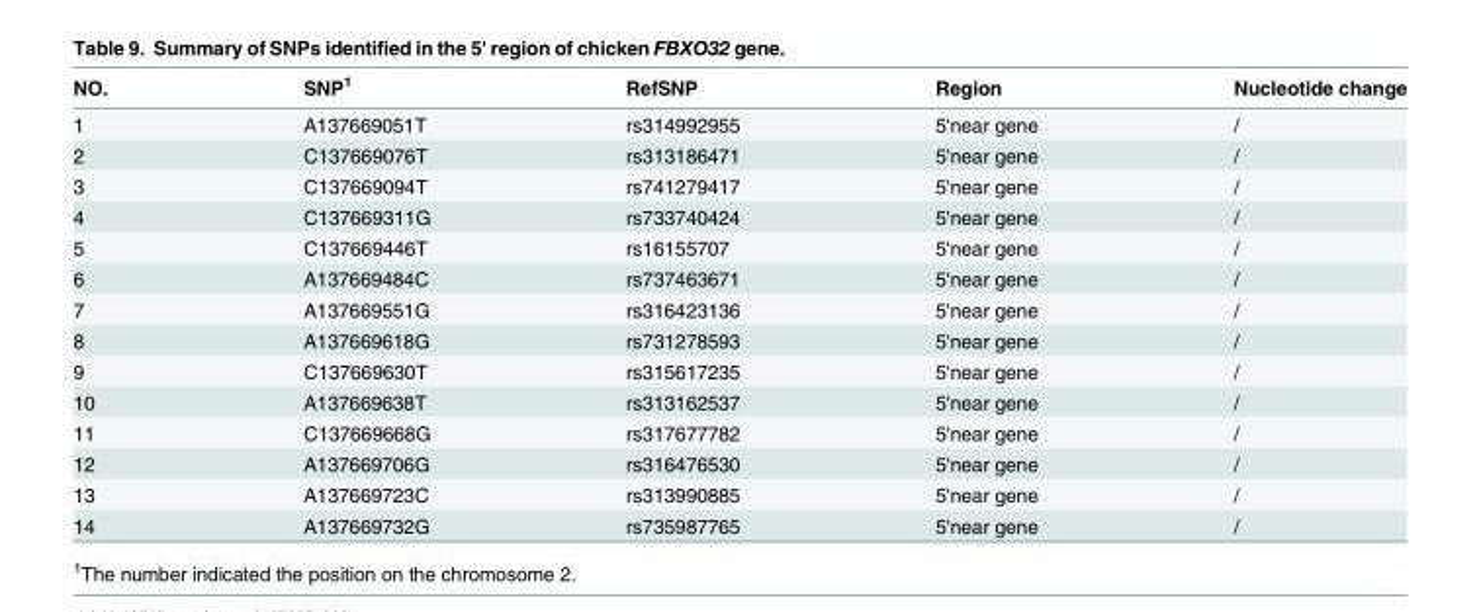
<table><thead><tr><td>NO.</td><td>SNP<sup>1</sup></td><td>RefSNP</td><td>Region</td><td>Nucleotide change</td></tr></thead><tbody><tr><td>1</td><td>A137669051T</td><td>rs314992955</td><td>5&#x27;near gene</td><td>/</td></tr><tr><td>2</td><td>C137669076T</td><td>rs313186471</td><td>5&#x27;near gene</td><td>/</td></tr><tr><td>3</td><td>C137669094T</td><td>rs741279417</td><td>5&#x27;near gene</td><td>/</td></tr><tr><td>4</td><td>C137669311G</td><td>rs733740424</td><td>5&#x27;near gene</td><td>/</td></tr><tr><td>5</td><td>C137669446T</td><td>rs16155707</td><td>5&#x27;near gene</td><td>/</td></tr><tr><td>6</td><td>A137669484C</td><td>rs737463671</td><td>5&#x27;near gene</td><td>/</td></tr><tr><td>7</td><td>A137669551G</td><td>rs316423136</td><td>5&#x27;near gene</td><td>/</td></tr><tr><td>8</td><td>A137669618G</td><td>rs731278593</td><td>5&#x27;near gene</td><td>/</td></tr><tr><td>9</td><td>C137669630T</td><td>rs315617235</td><td>5&#x27;near gene</td><td>/</td></tr><tr><td>10</td><td>A137669638T</td><td>rs313162537</td><td>5&#x27;near gene</td><td>/</td></tr><tr><td>11</td><td>C137669668G</td><td>rs317677782</td><td>5&#x27;near gene</td><td>/</td></tr><tr><td>12</td><td>A137669706G</td><td>rs316476530</td><td>5&#x27;near gene</td><td>/</td></tr><tr><td>13</td><td>A137669723C</td><td>rs313990885</td><td>5&#x27;near gene</td><td>/</td></tr><tr><td>14</td><td>A137669732G</td><td>rs735987765</td><td>5&#x27;near gene</td><td>/</td></tr></tbody></table>